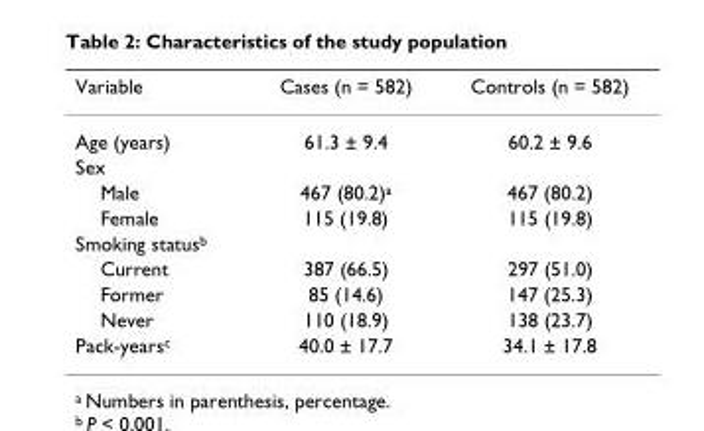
<table><thead><tr><td>Variable</td><td>Cases (n = 582)</td><td>Controls (n = 582)</td></tr></thead><tbody><tr><td>Age (years)</td><td>61.3 ± 9.4</td><td>60.2 ± 9.6</td></tr><tr><td colspan="3">Sex</td></tr><tr><td>Male</td><td>467 (80.2)<sup>a</sup></td><td>467 (80.2)</td></tr><tr><td>Female</td><td>115 (19.8)</td><td>115 (19.8)</td></tr><tr><td colspan="3">Smoking status<sup>b</sup></td></tr><tr><td>Current</td><td>387 (66.5)</td><td>297 (51.0)</td></tr><tr><td>Former</td><td>85 (14.6)</td><td>147 (25.3)</td></tr><tr><td>Never</td><td>110 (18.9)</td><td>138 (23.7)</td></tr><tr><td>Pack-years<sup>c</sup></td><td>40.0 ± 17.7</td><td>34.1 ± 17.8</td></tr></tbody></table>